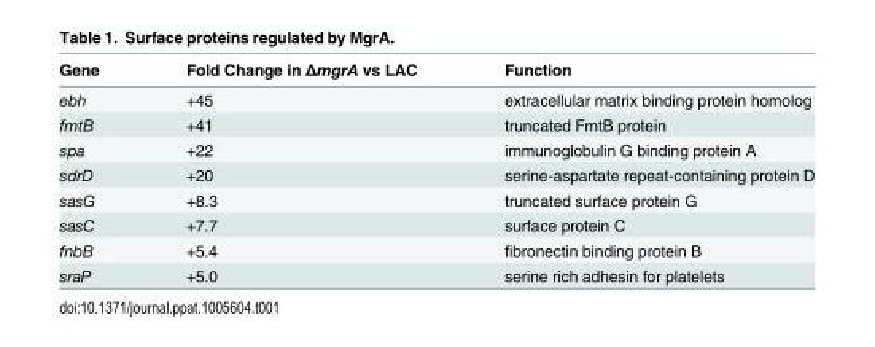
<table><thead><tr><td>Gene</td><td>Fold Change in ΔmgrA vs LAC</td><td>Function</td></tr></thead><tbody><tr><td>ebh</td><td>+45</td><td>extracellular matrix binding protein homolog</td></tr><tr><td>fmtB</td><td>+41</td><td>truncated FmtB protein</td></tr><tr><td>spa</td><td>+22</td><td>immunoglobulin G binding protein A</td></tr><tr><td>sdrD</td><td>+20</td><td>serine-aspartate repeat-containing protein D</td></tr><tr><td>sasG</td><td>+8.3</td><td>truncated surface protein G</td></tr><tr><td>sasC</td><td>+7.7</td><td>surface protein C</td></tr><tr><td>fnbB</td><td>+5.4</td><td>fibronectin binding protein B</td></tr><tr><td>sraP</td><td>+5.0</td><td>serine rich adhesin for platelets</td></tr></tbody></table>